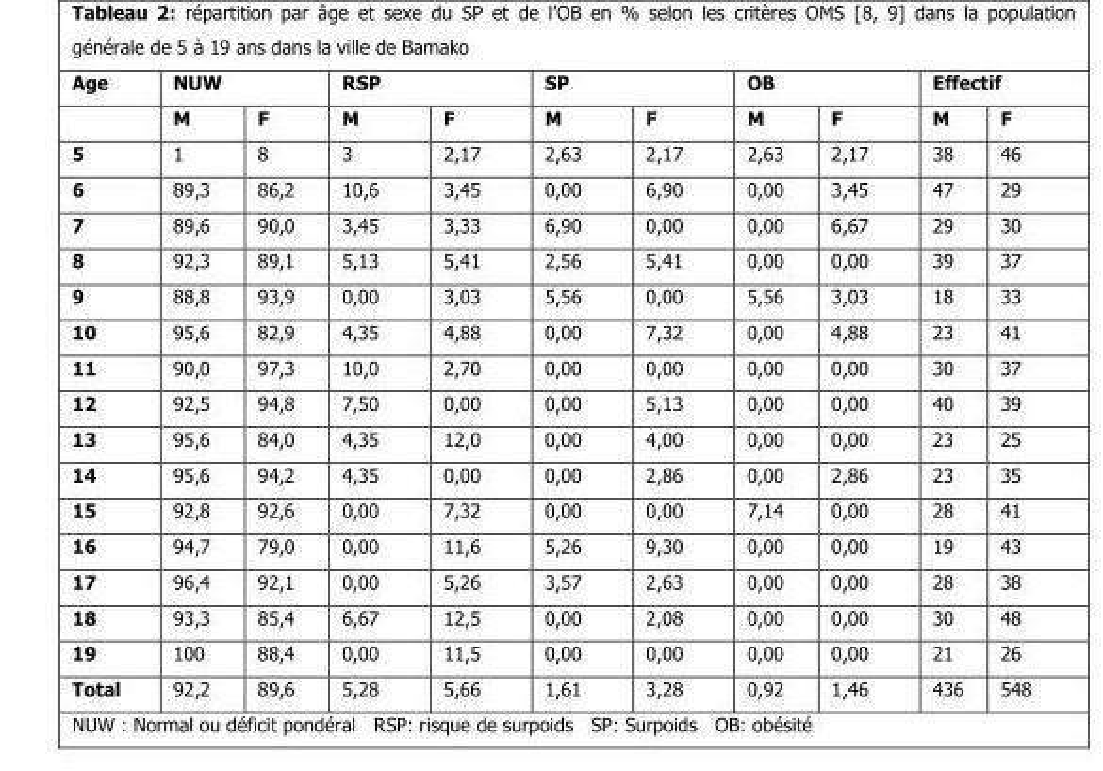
<table><thead><tr><td rowspan="2">Age</td><td colspan="2">NUW</td><td colspan="2">RSP</td><td colspan="2">SP</td><td colspan="2">OB</td><td colspan="2">Effectif</td></tr><tr><td>M</td><td>F</td><td>M</td><td>F</td><td>M</td><td>F</td><td>M</td><td>F</td><td>M</td><td>F</td></tr></thead><tbody><tr><td>5</td><td>1</td><td>8</td><td>3</td><td>2,17</td><td>2,63</td><td>2,17</td><td>2,63</td><td>2,17</td><td>38</td><td>46</td></tr><tr><td>6</td><td>89,3</td><td>86,2</td><td>10,6</td><td>3,45</td><td>0,00</td><td>6,90</td><td>0,00</td><td>3,45</td><td>47</td><td>29</td></tr><tr><td>7</td><td>89,6</td><td>90,0</td><td>3,45</td><td>3,33</td><td>6,90</td><td>0,00</td><td>0,00</td><td>6,67</td><td>29</td><td>30</td></tr><tr><td>8</td><td>92,3</td><td>89,1</td><td>5,13</td><td>5,41</td><td>2,56</td><td>5,41</td><td>0,00</td><td>0,00</td><td>39</td><td>37</td></tr><tr><td>9</td><td>88,8</td><td>93,9</td><td>0,00</td><td>3,03</td><td>5,56</td><td>0,00</td><td>5,56</td><td>3,03</td><td>18</td><td>33</td></tr><tr><td>10</td><td>95,6</td><td>82,9</td><td>4,35</td><td>4,88</td><td>0,00</td><td>7,32</td><td>0,00</td><td>4,88</td><td>23</td><td>41</td></tr><tr><td>11</td><td>90,0</td><td>97,3</td><td>10,0</td><td>2,70</td><td>0,00</td><td>0,00</td><td>0,00</td><td>0,00</td><td>30</td><td>37</td></tr><tr><td>12</td><td>92,5</td><td>94,8</td><td>7,50</td><td>0,00</td><td>0,00</td><td>5,13</td><td>0,00</td><td>0,00</td><td>40</td><td>39</td></tr><tr><td>13</td><td>95,6</td><td>84,0</td><td>4,35</td><td>12,0</td><td>0,00</td><td>4,00</td><td>0,00</td><td>0,00</td><td>23</td><td>25</td></tr><tr><td>14</td><td>95,6</td><td>94,2</td><td>4,35</td><td>0,00</td><td>0,00</td><td>2,86</td><td>0,00</td><td>2,86</td><td>23</td><td>35</td></tr><tr><td>15</td><td>92,8</td><td>92,6</td><td>0,00</td><td>7,32</td><td>0,00</td><td>0,00</td><td>7,14</td><td>0,00</td><td>28</td><td>41</td></tr><tr><td>16</td><td>94,7</td><td>79,0</td><td>0,00</td><td>11,6</td><td>5,26</td><td>9,30</td><td>0,00</td><td>0,00</td><td>19</td><td>43</td></tr><tr><td>17</td><td>96,4</td><td>92,1</td><td>0,00</td><td>5,26</td><td>3,57</td><td>2,63</td><td>0,00</td><td>0,00</td><td>28</td><td>38</td></tr><tr><td>18</td><td>93,3</td><td>85,4</td><td>6,67</td><td>12,5</td><td>0,00</td><td>2,08</td><td>0,00</td><td>0,00</td><td>30</td><td>48</td></tr><tr><td>19</td><td>100</td><td>88,4</td><td>0,00</td><td>11,5</td><td>0,00</td><td>0,00</td><td>0,00</td><td>0,00</td><td>21</td><td>26</td></tr><tr><td>Total</td><td>92,2</td><td>89,6</td><td>5,28</td><td>5,66</td><td>1,61</td><td>3,28</td><td>0,92</td><td>1,46</td><td>436</td><td>548</td></tr></tbody></table>